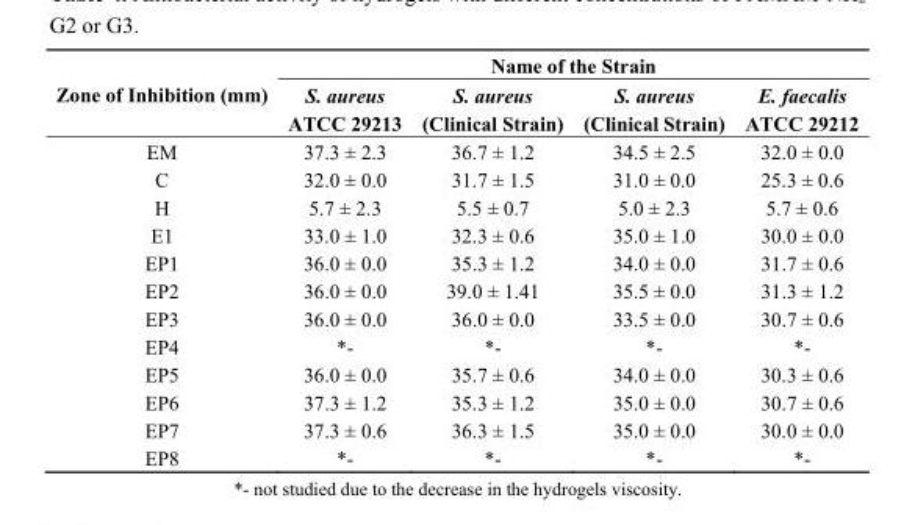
<table><thead><tr><td rowspan="2">Zone of Inhibition (mm)</td><td colspan="4">Name of the Strain</td></tr><tr><td>S. aureus ATCC 29213</td><td>S. aureus (Clinical Strain)</td><td>S. aureus (Clinical Strain)</td><td>E. faecalis ATCC 29212</td></tr></thead><tbody><tr><td>EM</td><td>37.3 ± 2.3</td><td>36.7 ± 1.2</td><td>34.5 ± 2.5</td><td>32.0 ± 0.0</td></tr><tr><td>C</td><td>32.0 ± 0.0</td><td>31.7 ± 1.5</td><td>31.0 ± 0.0</td><td>25.3 ± 0.6</td></tr><tr><td>H</td><td>5.7 ± 2.3</td><td>5.5 ± 0.7</td><td>5.0 ± 2.3</td><td>5.7 ± 0.6</td></tr><tr><td>E1</td><td>33.0 ± 1.0</td><td>32.3 ± 0.6</td><td>35.0 ± 1.0</td><td>30.0 ± 0.0</td></tr><tr><td>EP1</td><td>36.0 ± 0.0</td><td>35.3 ± 1.2</td><td>34.0 ± 0.0</td><td>31.7 ± 0.6</td></tr><tr><td>EP2</td><td>36.0 ± 0.0</td><td>39.0 ± 1.41</td><td>35.5 ± 0.0</td><td>31.3 ± 1.2</td></tr><tr><td>EP3</td><td>36.0 ± 0.0</td><td>36.0 ± 0.0</td><td>33.5 ± 0.0</td><td>30.7 ± 0.6</td></tr><tr><td>EP4</td><td>*-</td><td>*-</td><td>*-</td><td>*-</td></tr><tr><td>EP5</td><td>36.0 ± 0.0</td><td>35.7 ± 0.6</td><td>34.0 ± 0.0</td><td>30.3 ± 0.6</td></tr><tr><td>EP6</td><td>37.3 ± 1.2</td><td>35.3 ± 1.2</td><td>35.0 ± 0.0</td><td>30.7 ± 0.6</td></tr><tr><td>EP7</td><td>37.3 ± 0.6</td><td>36.3 ± 1.5</td><td>35.0 ± 0.0</td><td>30.0 ± 0.0</td></tr><tr><td>EP8</td><td>*-</td><td>*-</td><td>*-</td><td>*-</td></tr></tbody></table>